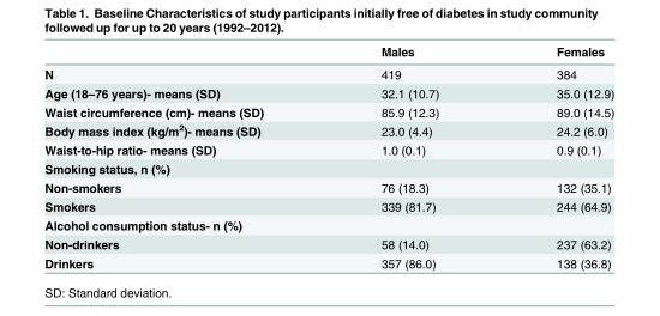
<table><thead><tr><td></td><td>Males</td><td>Females</td></tr></thead><tbody><tr><td>N</td><td>419</td><td>384</td></tr><tr><td>Age (18–76 years)- means (SD)</td><td>32.1 (10.7)</td><td>35.0 (12.9)</td></tr><tr><td>Waist circumference (cm)- means (SD)</td><td>85.9 (12.3)</td><td>89.0 (14.5)</td></tr><tr><td>Body mass index (kg/m<sup>2</sup>)- means (SD)</td><td>23.0 (4.4)</td><td>24.2 (6.0)</td></tr><tr><td>Waist-to-hip ratio- means (SD)</td><td>1.0 (0.1)</td><td>0.9 (0.1)</td></tr><tr><td colspan="3">Smoking status, n (%)</td></tr><tr><td>Non-smokers</td><td>76 (18.3)</td><td>132 (35.1)</td></tr><tr><td>Smokers</td><td>339 (81.7)</td><td>244 (64.9)</td></tr><tr><td colspan="3">Alcohol consumption status- n (%)</td></tr><tr><td>Non-drinkers</td><td>58 (14.0)</td><td>237 (63.2)</td></tr><tr><td>Drinkers</td><td>357 (86.0)</td><td>138 (36.8)</td></tr></tbody></table>